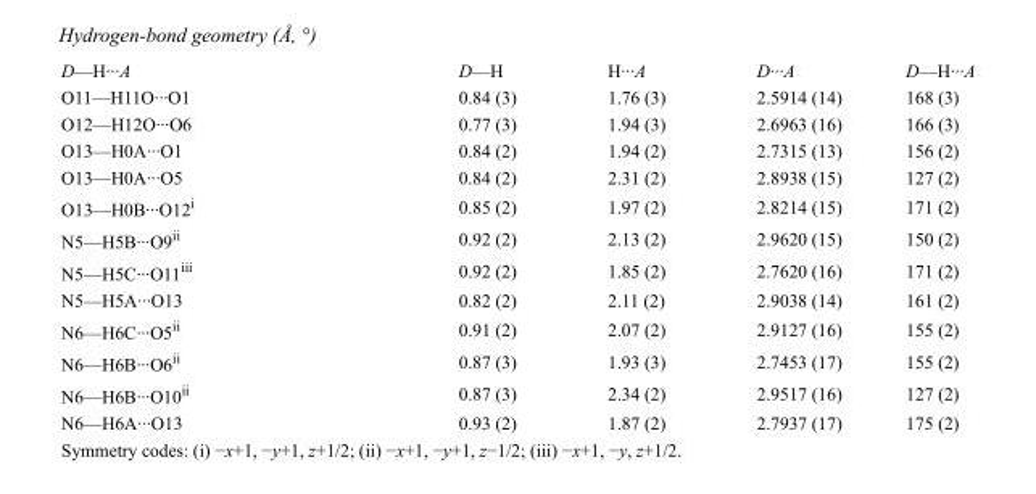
<table><tbody><tr><td>D—H···A</td><td>D—H</td><td>H···A</td><td>D···A</td><td>D—H···A</td></tr><tr><td>O11—H11O···O1</td><td>0.84 (3)</td><td>1.76 (3)</td><td>2.5914 (14)</td><td>168 (3)</td></tr><tr><td>O12—H12O···O6</td><td>0.77 (3)</td><td>1.94 (3)</td><td>2.6963 (16)</td><td>166 (3)</td></tr><tr><td>O13—H0A···O1</td><td>0.84 (2)</td><td>1.94 (2)</td><td>2.7315 (13)</td><td>156 (2)</td></tr><tr><td>O13—H0A···O5</td><td>0.84 (2)</td><td>2.31 (2)</td><td>2.8938 (15)</td><td>127 (2)</td></tr><tr><td>O13—H0B···O12<sup>i</sup></td><td>0.85 (2)</td><td>1.97 (2)</td><td>2.8214 (15)</td><td>171 (2)</td></tr><tr><td>N5—H5B···O9<sup>ii</sup></td><td>0.92 (2)</td><td>2.13 (2)</td><td>2.9620 (15)</td><td>150 (2)</td></tr><tr><td>N5—H5C···O11<sup>iii</sup></td><td>0.92 (2)</td><td>1.85 (2)</td><td>2.7620 (16)</td><td>171 (2)</td></tr><tr><td>N5—H5A···O13</td><td>0.82 (2)</td><td>2.11 (2)</td><td>2.9038 (14)</td><td>161 (2)</td></tr><tr><td>N6—H6C···O5<sup>ii</sup></td><td>0.91 (2)</td><td>2.07 (2)</td><td>2.9127 (16)</td><td>155 (2)</td></tr><tr><td>N6—H6B···O6<sup>ii</sup></td><td>0.87 (3)</td><td>1.93 (3)</td><td>2.7453 (17)</td><td>155 (2)</td></tr><tr><td>N6—H6B···O10<sup>ii</sup></td><td>0.87 (3)</td><td>2.34 (2)</td><td>2.9517 (16)</td><td>127 (2)</td></tr><tr><td>N6—H6A···O13</td><td>0.93 (2)</td><td>1.87 (2)</td><td>2.7937 (17)</td><td>175 (2)</td></tr></tbody></table>